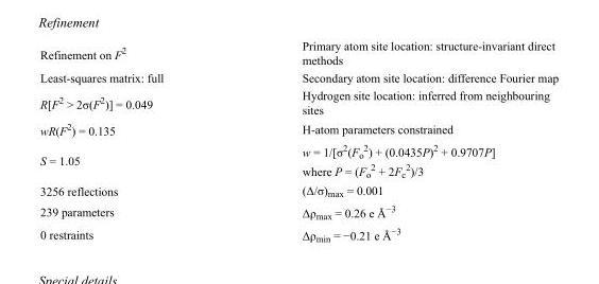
<table><tbody><tr><td>Refinement on F<sup>2</sup></td><td>Primary atom site location: structure-invariant direct methods</td></tr><tr><td>Least-squares matrix: full</td><td>Secondary atom site location: difference Fourier map</td></tr><tr><td>R[F<sup>2</sup> &gt; 2σ(F<sup>2</sup>)] = 0.049</td><td>Hydrogen site location: inferred from neighbouring sites</td></tr><tr><td>wR(F<sup>2</sup>) = 0.135</td><td>H-atom parameters constrained</td></tr><tr><td>S = 1.05</td><td>w = 1/[σ<sup>2</sup>(F<sub>o</sub> <sup>2</sup>) + (0.0435P)<sup>2</sup> + 0.9707P] where P = (F<sub>o</sub> <sup>2</sup> + 2F<sub>c</sub> <sup>2</sup>)/3</td></tr><tr><td>3256 reflections</td><td>(Δ/σ)<sub>max</sub> = 0.001</td></tr><tr><td>239 parameters</td><td>Δρ<sub>max</sub> = 0.26 e Å<sup>−3</sup></td></tr><tr><td>0 restraints</td><td>Δρ<sub>min</sub> = −0.21 e Å<sup>−3</sup></td></tr></tbody></table>